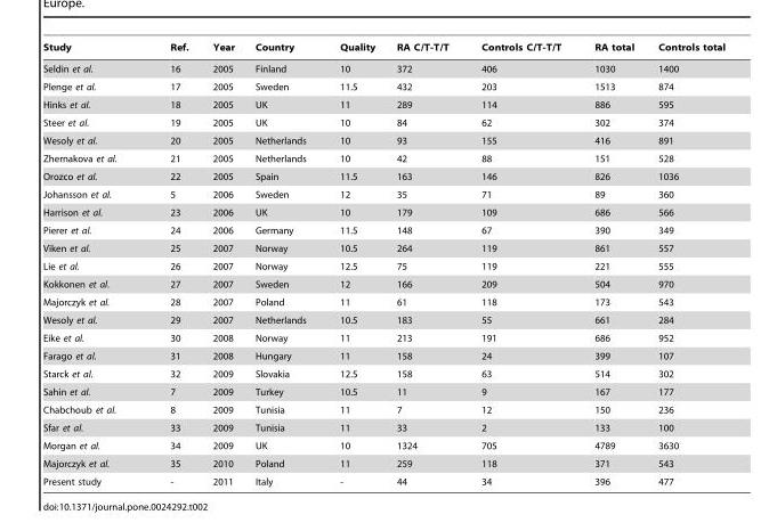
<table><thead><tr><td>Study</td><td>Ref.</td><td>Year</td><td>Country</td><td>Quality</td><td>RA C/T-T/T</td><td>Controls C/T-T/T</td><td>RA total</td><td>Controls total</td></tr></thead><tbody><tr><td>Seldin et al.</td><td>16</td><td>2005</td><td>Finland</td><td>10</td><td>372</td><td>406</td><td>1030</td><td>1400</td></tr><tr><td>Plenge et al.</td><td>17</td><td>2005</td><td>Sweden</td><td>11.5</td><td>432</td><td>203</td><td>1513</td><td>874</td></tr><tr><td>Hinks et al.</td><td>18</td><td>2005</td><td>UK</td><td>11</td><td>289</td><td>114</td><td>886</td><td>595</td></tr><tr><td>Steer et al.</td><td>19</td><td>2005</td><td>UK</td><td>10</td><td>84</td><td>62</td><td>302</td><td>374</td></tr><tr><td>Wesoly et al.</td><td>20</td><td>2005</td><td>Netherlands</td><td>10</td><td>93</td><td>155</td><td>416</td><td>891</td></tr><tr><td>Zhernakova et al.</td><td>21</td><td>2005</td><td>Netherlands</td><td>10</td><td>42</td><td>88</td><td>151</td><td>528</td></tr><tr><td>Orozco et al.</td><td>22</td><td>2005</td><td>Spain</td><td>11.5</td><td>163</td><td>146</td><td>826</td><td>1036</td></tr><tr><td>Johansson et al.</td><td>5</td><td>2006</td><td>Sweden</td><td>12</td><td>35</td><td>71</td><td>89</td><td>360</td></tr><tr><td>Harrison et al.</td><td>23</td><td>2006</td><td>UK</td><td>10</td><td>179</td><td>109</td><td>686</td><td>566</td></tr><tr><td>Pierer et al.</td><td>24</td><td>2006</td><td>Germany</td><td>11.5</td><td>148</td><td>67</td><td>390</td><td>349</td></tr><tr><td>Viken et al.</td><td>25</td><td>2007</td><td>Norway</td><td>10.5</td><td>264</td><td>119</td><td>861</td><td>557</td></tr><tr><td>Lie et al.</td><td>26</td><td>2007</td><td>Norway</td><td>12.5</td><td>75</td><td>119</td><td>221</td><td>555</td></tr><tr><td>Kokkonen et al.</td><td>27</td><td>2007</td><td>Sweden</td><td>12</td><td>166</td><td>209</td><td>504</td><td>970</td></tr><tr><td>Majorczyk et al.</td><td>28</td><td>2007</td><td>Poland</td><td>11</td><td>61</td><td>118</td><td>173</td><td>543</td></tr><tr><td>Wesoly et al.</td><td>29</td><td>2007</td><td>Netherlands</td><td>10.5</td><td>183</td><td>55</td><td>661</td><td>284</td></tr><tr><td>Eike et al.</td><td>30</td><td>2008</td><td>Norway</td><td>11</td><td>213</td><td>191</td><td>686</td><td>952</td></tr><tr><td>Farago et al.</td><td>31</td><td>2008</td><td>Hungary</td><td>11</td><td>158</td><td>24</td><td>399</td><td>107</td></tr><tr><td>Starck et al.</td><td>32</td><td>2009</td><td>Slovakia</td><td>12.5</td><td>158</td><td>63</td><td>514</td><td>302</td></tr><tr><td>Sahin et al.</td><td>7</td><td>2009</td><td>Turkey</td><td>10.5</td><td>11</td><td>9</td><td>167</td><td>177</td></tr><tr><td>Chabchoub et al.</td><td>8</td><td>2009</td><td>Tunisia</td><td>11</td><td>7</td><td>12</td><td>150</td><td>236</td></tr><tr><td>Sfar et al.</td><td>33</td><td>2009</td><td>Tunisia</td><td>11</td><td>33</td><td>2</td><td>133</td><td>100</td></tr><tr><td>Morgan et al.</td><td>34</td><td>2009</td><td>UK</td><td>10</td><td>1324</td><td>705</td><td>4789</td><td>3630</td></tr><tr><td>Majorczyk et al.</td><td>35</td><td>2010</td><td>Poland</td><td>11</td><td>259</td><td>118</td><td>371</td><td>543</td></tr><tr><td>Present study</td><td>-</td><td>2011</td><td>Italy</td><td>-</td><td>44</td><td>34</td><td>396</td><td>477</td></tr></tbody></table>